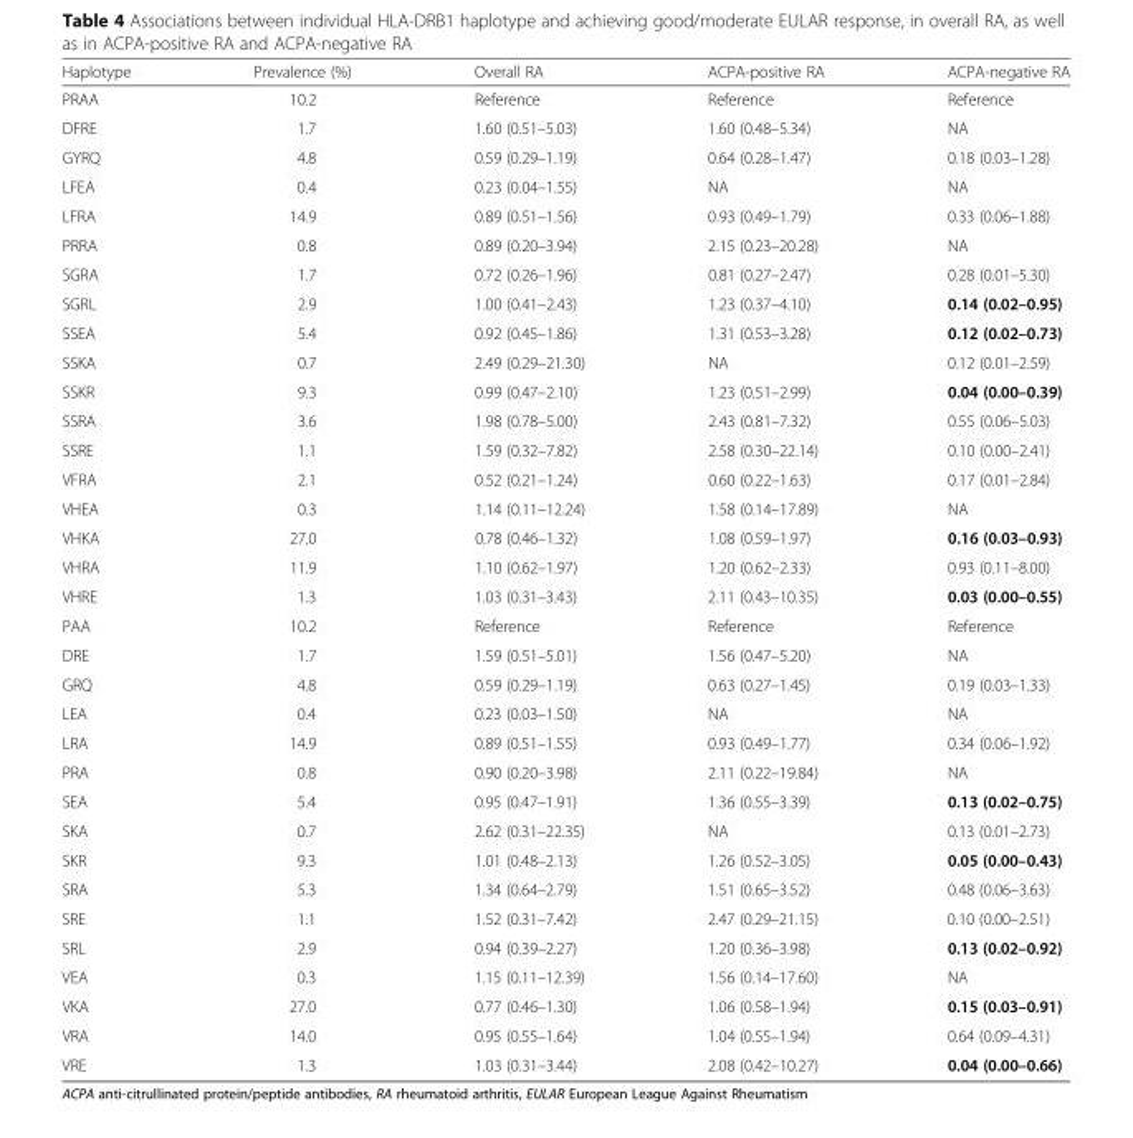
<table><thead><tr><td>Haplotype</td><td>Prevalence (%)</td><td>Overall RA</td><td>ACPA-positive RA</td><td>ACPA-negative RA</td></tr></thead><tbody><tr><td>PRAA</td><td>10.2</td><td>Reference</td><td>Reference</td><td>Reference</td></tr><tr><td>DFRE</td><td>1.7</td><td>1.60 (0.51–5.03)</td><td>1.60 (0.48–5.34)</td><td>NA</td></tr><tr><td>GYRQ</td><td>4.8</td><td>0.59 (0.29–1.19)</td><td>0.64 (0.28–1.47)</td><td>0.18 (0.03–1.28)</td></tr><tr><td>LFEA</td><td>0.4</td><td>0.23 (0.04–1.55)</td><td>NA</td><td>NA</td></tr><tr><td>LFRA</td><td>14.9</td><td>0.89 (0.51–1.56)</td><td>0.93 (0.49–1.79)</td><td>0.33 (0.06–1.88)</td></tr><tr><td>PRRA</td><td>0.8</td><td>0.89 (0.20–3.94)</td><td>2.15 (0.23–20.28)</td><td>NA</td></tr><tr><td>SGRA</td><td>1.7</td><td>0.72 (0.26–1.96)</td><td>0.81 (0.27–2.47)</td><td>0.28 (0.01–5.30)</td></tr><tr><td>SGRL</td><td>2.9</td><td>1.00 (0.41–2.43)</td><td>1.23 (0.37–4.10)</td><td>0.14 (0.02–0.95)</td></tr><tr><td>SSEA</td><td>5.4</td><td>0.92 (0.45–1.86)</td><td>1.31 (0.53–3.28)</td><td>0.12 (0.02–0.73)</td></tr><tr><td>SSKA</td><td>0.7</td><td>2.49 (0.29–21.30)</td><td>NA</td><td>0.12 (0.01–2.59)</td></tr><tr><td>SSKR</td><td>9.3</td><td>0.99 (0.47–2.10)</td><td>1.23 (0.51–2.99)</td><td>0.04 (0.00–0.39)</td></tr><tr><td>SSRA</td><td>3.6</td><td>1.98 (0.78–5.00)</td><td>2.43 (0.81–7.32)</td><td>0.55 (0.06–5.03)</td></tr><tr><td>SSRE</td><td>1.1</td><td>1.59 (0.32–7.82)</td><td>2.58 (0.30–22.14)</td><td>0.10 (0.00–2.41)</td></tr><tr><td>VFRA</td><td>2.1</td><td>0.52 (0.21–1.24)</td><td>0.60 (0.22–1.63)</td><td>0.17 (0.01–2.84)</td></tr><tr><td>VHEA</td><td>0.3</td><td>1.14 (0.11–12.24)</td><td>1.58 (0.14–17.89)</td><td>NA</td></tr><tr><td>VHKA</td><td>27.0</td><td>0.78 (0.46–1.32)</td><td>1.08 (0.59–1.97)</td><td>0.16 (0.03–0.93)</td></tr><tr><td>VHRA</td><td>11.9</td><td>1.10 (0.62–1.97)</td><td>1.20 (0.62–2.33)</td><td>0.93 (0.11–8.00)</td></tr><tr><td>VHRE</td><td>1.3</td><td>1.03 (0.31–3.43)</td><td>2.11 (0.43–10.35)</td><td>0.03 (0.00–0.55)</td></tr><tr><td>PAA</td><td>10.2</td><td>Reference</td><td>Reference</td><td>Reference</td></tr><tr><td>DRE</td><td>1.7</td><td>1.59 (0.51–5.01)</td><td>1.56 (0.47–5.20)</td><td>NA</td></tr><tr><td>GRQ</td><td>4.8</td><td>0.59 (0.29–1.19)</td><td>0.63 (0.27–1.45)</td><td>0.19 (0.03–1.33)</td></tr><tr><td>LEA</td><td>0.4</td><td>0.23 (0.03–1.50)</td><td>NA</td><td>NA</td></tr><tr><td>LRA</td><td>14.9</td><td>0.89 (0.51–1.55)</td><td>0.93 (0.49–1.77)</td><td>0.34 (0.06–1.92)</td></tr><tr><td>PRA</td><td>0.8</td><td>0.90 (0.20–3.98)</td><td>2.11 (0.22–19.84)</td><td>NA</td></tr><tr><td>SEA</td><td>5.4</td><td>0.95 (0.47–1.91)</td><td>1.36 (0.55–3.39)</td><td>0.13 (0.02–0.75)</td></tr><tr><td>SKA</td><td>0.7</td><td>2.62 (0.31–22.35)</td><td>NA</td><td>0.13 (0.01–2.73)</td></tr><tr><td>SKR</td><td>9.3</td><td>1.01 (0.48–2.13)</td><td>1.26 (0.52–3.05)</td><td>0.05 (0.00–0.43)</td></tr><tr><td>SRA</td><td>5.3</td><td>1.34 (0.64–2.79)</td><td>1.51 (0.65–3.52)</td><td>0.48 (0.06–3.63)</td></tr><tr><td>SRE</td><td>1.1</td><td>1.52 (0.31–7.42)</td><td>2.47 (0.29–21.15)</td><td>0.10 (0.00–2.51)</td></tr><tr><td>SRL</td><td>2.9</td><td>0.94 (0.39–2.27)</td><td>1.20 (0.36–3.98)</td><td>0.13 (0.02–0.92)</td></tr><tr><td>VEA</td><td>0.3</td><td>1.15 (0.11–12.39)</td><td>1.56 (0.14–17.60)</td><td>NA</td></tr><tr><td>VKA</td><td>27.0</td><td>0.77 (0.46–1.30)</td><td>1.06 (0.58–1.94)</td><td>0.15 (0.03–0.91)</td></tr><tr><td>VRA</td><td>14.0</td><td>0.95 (0.55–1.64)</td><td>1.04 (0.55–1.94)</td><td>0.64 (0.09–4.31)</td></tr><tr><td>VRE</td><td>1.3</td><td>1.03 (0.31–3.44)</td><td>2.08 (0.42–10.27)</td><td>0.04 (0.00–0.66)</td></tr></tbody></table>